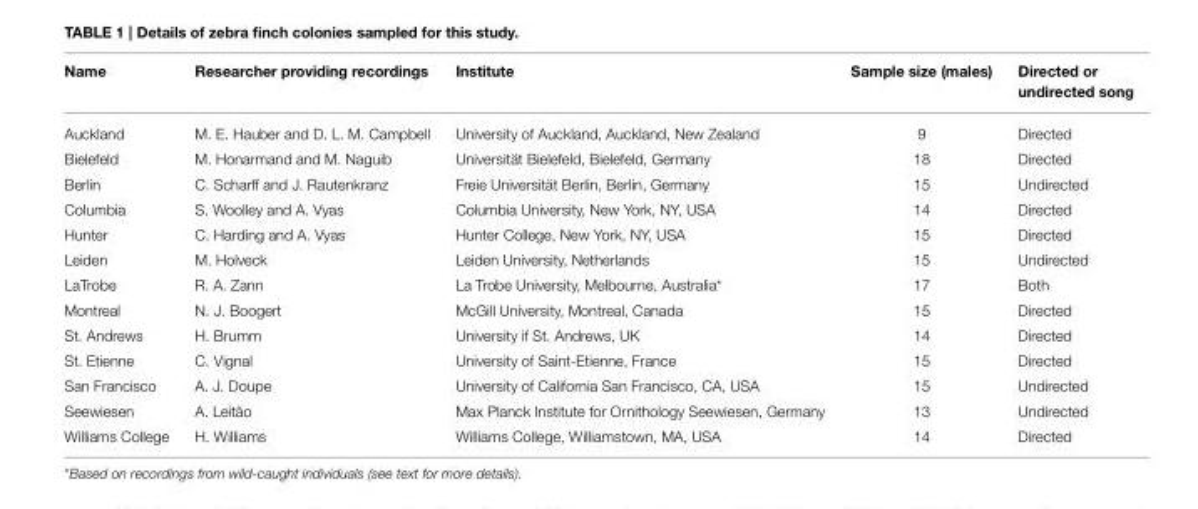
<table><thead><tr><td>Name</td><td>Researcher providing recordings</td><td>Institute</td><td>Sample size (males)</td><td>Directed or undirected song</td></tr></thead><tbody><tr><td>Auckland</td><td>M. E. Hauber and D. L. M. Campbell</td><td>University of Auckland, Auckland, New Zealand</td><td>9</td><td>Directed</td></tr><tr><td>Bielefeld</td><td>M. Honarmand and M. Naguib</td><td>Universität Bielefeld, Bielefeld, Germany</td><td>18</td><td>Directed</td></tr><tr><td>Berlin</td><td>C. Scharff and J. Rautenkranz</td><td>Freie Universität Berlin, Berlin, Germany</td><td>15</td><td>Undirected</td></tr><tr><td>Columbia</td><td>S. Woolley and A. Vyas</td><td>Columbia University, New York, NY, USA</td><td>14</td><td>Directed</td></tr><tr><td>Hunter</td><td>C. Harding and A. Vyas</td><td>Hunter College, New York, NY, USA</td><td>15</td><td>Directed</td></tr><tr><td>Leiden</td><td>M. Holveck</td><td>Leiden University, Netherlands</td><td>15</td><td>Undirected</td></tr><tr><td>LaTrobe</td><td>R. A. Zann</td><td>La Trobe University, Melbourne, Australia*</td><td>17</td><td>Both</td></tr><tr><td>Montreal</td><td>N. J. Boogert</td><td>McGill University, Montreal, Canada</td><td>15</td><td>Directed</td></tr><tr><td>St. Andrews</td><td>H. Brumm</td><td>University if St. Andrews, UK</td><td>14</td><td>Directed</td></tr><tr><td>St. Etienne</td><td>C. Vignal</td><td>University of Saint-Etienne, France</td><td>15</td><td>Directed</td></tr><tr><td>San Francisco</td><td>A. J. Doupe</td><td>University of California San Francisco, CA, USA</td><td>15</td><td>Undirected</td></tr><tr><td>Seewiesen</td><td>A. Leitão</td><td>Max Planck Institute for Ornithology Seewiesen, Germany</td><td>13</td><td>Undirected</td></tr><tr><td>Williams College</td><td>H. Williams</td><td>Williams College, Williamstown, MA, USA</td><td>14</td><td>Directed</td></tr></tbody></table>